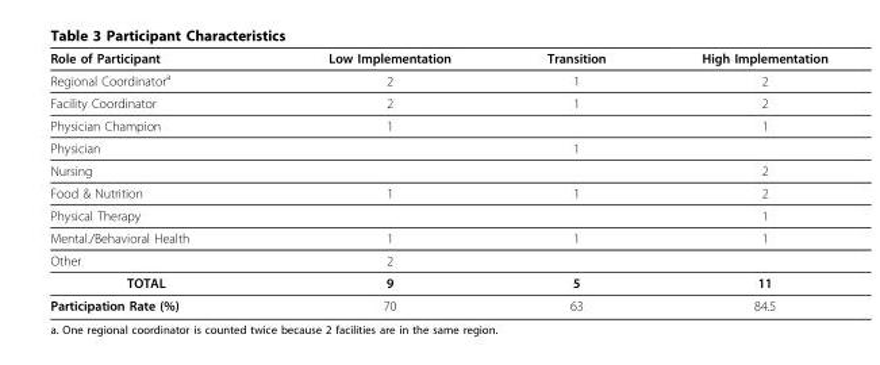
<table><thead><tr><td>Role of Participant</td><td>Low Implementation</td><td>Transition</td><td>High Implementation</td></tr></thead><tbody><tr><td>Regional Coordinator<sup>a</sup></td><td>2</td><td>1</td><td>2</td></tr><tr><td>Facility Coordinator</td><td>2</td><td>1</td><td>2</td></tr><tr><td>Physician Champion</td><td>1</td><td></td><td>1</td></tr><tr><td>Physician</td><td></td><td>1</td><td></td></tr><tr><td>Nursing</td><td></td><td></td><td>2</td></tr><tr><td>Food &amp; Nutrition</td><td>1</td><td>1</td><td>2</td></tr><tr><td>Physical Therapy</td><td></td><td></td><td>1</td></tr><tr><td>Mental./Behavioral Health</td><td>1</td><td>1</td><td>1</td></tr><tr><td>Other</td><td>2</td><td></td><td></td></tr><tr><td>TOTAL</td><td>9</td><td>5</td><td>11</td></tr><tr><td>Participation Rate (%)</td><td>70</td><td>63</td><td>84.5</td></tr></tbody></table>